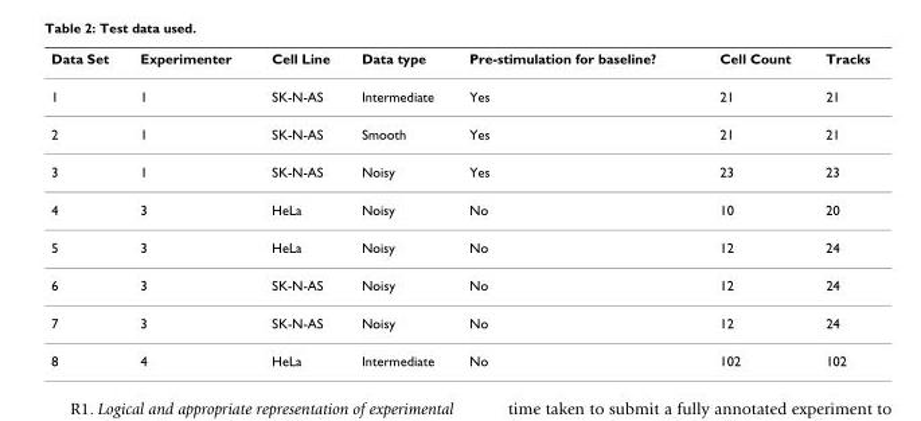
<table><thead><tr><td>Data Set</td><td>Experimenter</td><td>Cell Line</td><td>Data type</td><td>Pre-stimulation for baseline?</td><td>Cell Count</td><td>Tracks</td></tr></thead><tbody><tr><td>1</td><td>1</td><td>SK-N-AS</td><td>Intermediate</td><td>Yes</td><td>21</td><td>21</td></tr><tr><td>2</td><td>1</td><td>SK-N-AS</td><td>Smooth</td><td>Yes</td><td>21</td><td>21</td></tr><tr><td>3</td><td>1</td><td>SK-N-AS</td><td>Noisy</td><td>Yes</td><td>23</td><td>23</td></tr><tr><td>4</td><td>3</td><td>HeLa</td><td>Noisy</td><td>No</td><td>10</td><td>20</td></tr><tr><td>5</td><td>3</td><td>HeLa</td><td>Noisy</td><td>No</td><td>12</td><td>24</td></tr><tr><td>6</td><td>3</td><td>SK-N-AS</td><td>Noisy</td><td>No</td><td>12</td><td>24</td></tr><tr><td>7</td><td>3</td><td>SK-N-AS</td><td>Noisy</td><td>No</td><td>12</td><td>24</td></tr><tr><td>8</td><td>4</td><td>HeLa</td><td>Intermediate</td><td>No</td><td>102</td><td>102</td></tr></tbody></table>